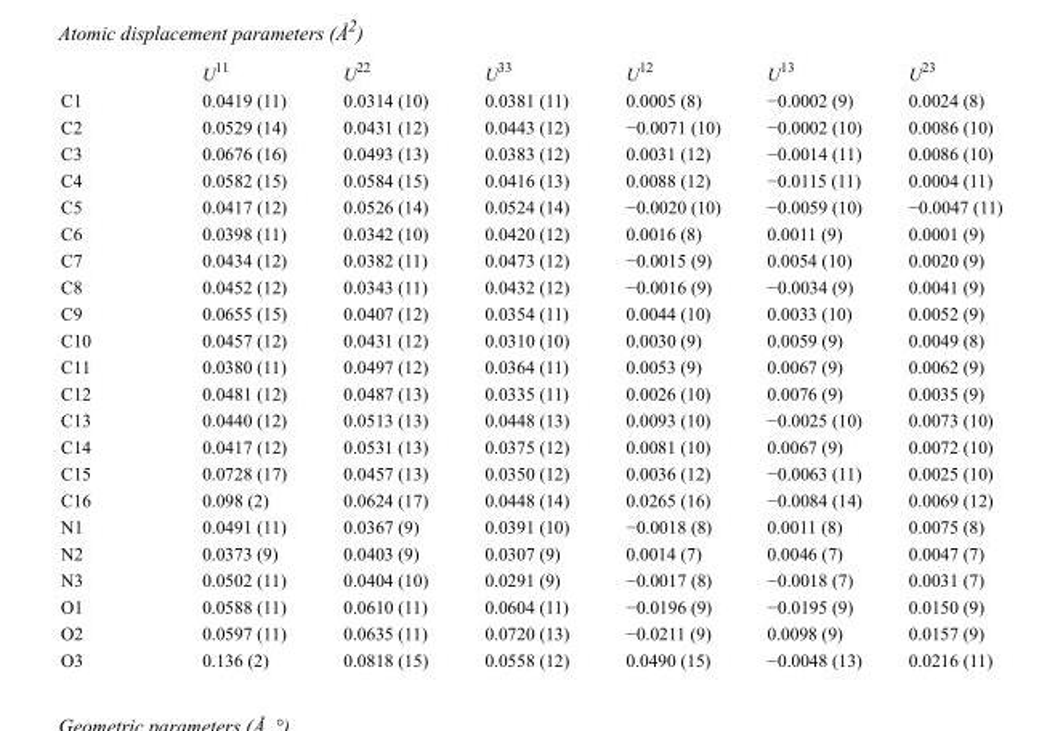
<table><thead><tr><td></td><td>U<sup>11</sup></td><td>U<sup>22</sup></td><td>U<sup>33</sup></td><td>U<sup>12</sup></td><td>U<sup>13</sup></td><td>U<sup>23</sup></td></tr></thead><tbody><tr><td>C1</td><td>0.0419 (11)</td><td>0.0314 (10)</td><td>0.0381 (11)</td><td>0.0005 (8)</td><td>−0.0002 (9)</td><td>0.0024 (8)</td></tr><tr><td>C2</td><td>0.0529 (14)</td><td>0.0431 (12)</td><td>0.0443 (12)</td><td>−0.0071 (10)</td><td>−0.0002 (10)</td><td>0.0086 (10)</td></tr><tr><td>C3</td><td>0.0676 (16)</td><td>0.0493 (13)</td><td>0.0383 (12)</td><td>0.0031 (12)</td><td>−0.0014 (11)</td><td>0.0086 (10)</td></tr><tr><td>C4</td><td>0.0582 (15)</td><td>0.0584 (15)</td><td>0.0416 (13)</td><td>0.0088 (12)</td><td>−0.0115 (11)</td><td>0.0004 (11)</td></tr><tr><td>C5</td><td>0.0417 (12)</td><td>0.0526 (14)</td><td>0.0524 (14)</td><td>−0.0020 (10)</td><td>−0.0059 (10)</td><td>−0.0047 (11)</td></tr><tr><td>C6</td><td>0.0398 (11)</td><td>0.0342 (10)</td><td>0.0420 (12)</td><td>0.0016 (8)</td><td>0.0011 (9)</td><td>0.0001 (9)</td></tr><tr><td>C7</td><td>0.0434 (12)</td><td>0.0382 (11)</td><td>0.0473 (12)</td><td>−0.0015 (9)</td><td>0.0054 (10)</td><td>0.0020 (9)</td></tr><tr><td>C8</td><td>0.0452 (12)</td><td>0.0343 (11)</td><td>0.0432 (12)</td><td>−0.0016 (9)</td><td>−0.0034 (9)</td><td>0.0041 (9)</td></tr><tr><td>C9</td><td>0.0655 (15)</td><td>0.0407 (12)</td><td>0.0354 (11)</td><td>0.0044 (10)</td><td>0.0033 (10)</td><td>0.0052 (9)</td></tr><tr><td>C10</td><td>0.0457 (12)</td><td>0.0431 (12)</td><td>0.0310 (10)</td><td>0.0030 (9)</td><td>0.0059 (9)</td><td>0.0049 (8)</td></tr><tr><td>C11</td><td>0.0380 (11)</td><td>0.0497 (12)</td><td>0.0364 (11)</td><td>0.0053 (9)</td><td>0.0067 (9)</td><td>0.0062 (9)</td></tr><tr><td>C12</td><td>0.0481 (12)</td><td>0.0487 (13)</td><td>0.0335 (11)</td><td>0.0026 (10)</td><td>0.0076 (9)</td><td>0.0035 (9)</td></tr><tr><td>C13</td><td>0.0440 (12)</td><td>0.0513 (13)</td><td>0.0448 (13)</td><td>0.0093 (10)</td><td>−0.0025 (10)</td><td>0.0073 (10)</td></tr><tr><td>C14</td><td>0.0417 (12)</td><td>0.0531 (13)</td><td>0.0375 (12)</td><td>0.0081 (10)</td><td>0.0067 (9)</td><td>0.0072 (10)</td></tr><tr><td>C15</td><td>0.0728 (17)</td><td>0.0457 (13)</td><td>0.0350 (12)</td><td>0.0036 (12)</td><td>−0.0063 (11)</td><td>0.0025 (10)</td></tr><tr><td>C16</td><td>0.098 (2)</td><td>0.0624 (17)</td><td>0.0448 (14)</td><td>0.0265 (16)</td><td>−0.0084 (14)</td><td>0.0069 (12)</td></tr><tr><td>N1</td><td>0.0491 (11)</td><td>0.0367 (9)</td><td>0.0391 (10)</td><td>−0.0018 (8)</td><td>0.0011 (8)</td><td>0.0075 (8)</td></tr><tr><td>N2</td><td>0.0373 (9)</td><td>0.0403 (9)</td><td>0.0307 (9)</td><td>0.0014 (7)</td><td>0.0046 (7)</td><td>0.0047 (7)</td></tr><tr><td>N3</td><td>0.0502 (11)</td><td>0.0404 (10)</td><td>0.0291 (9)</td><td>−0.0017 (8)</td><td>−0.0018 (7)</td><td>0.0031 (7)</td></tr><tr><td>O1</td><td>0.0588 (11)</td><td>0.0610 (11)</td><td>0.0604 (11)</td><td>−0.0196 (9)</td><td>−0.0195 (9)</td><td>0.0150 (9)</td></tr><tr><td>O2</td><td>0.0597 (11)</td><td>0.0635 (11)</td><td>0.0720 (13)</td><td>−0.0211 (9)</td><td>0.0098 (9)</td><td>0.0157 (9)</td></tr><tr><td>O3</td><td>0.136 (2)</td><td>0.0818 (15)</td><td>0.0558 (12)</td><td>0.0490 (15)</td><td>−0.0048 (13)</td><td>0.0216 (11)</td></tr></tbody></table>